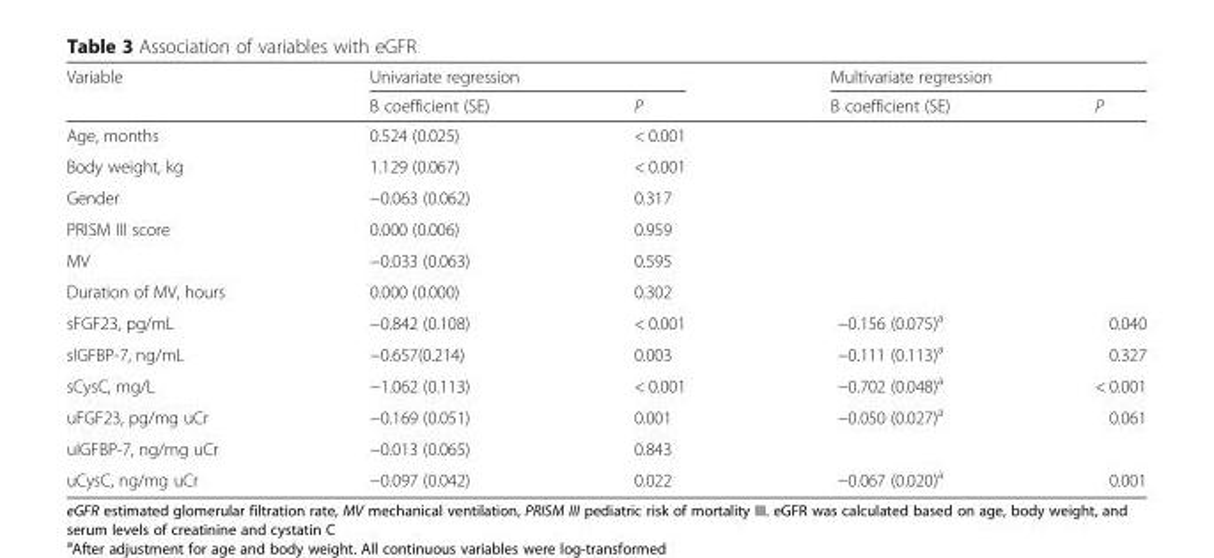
<table><thead><tr><td rowspan="2">Variable</td><td colspan="2">Univariate regression</td><td colspan="2">Multivariate regression</td></tr><tr><td>B coefficient (SE)</td><td>P</td><td>B coefficient (SE)</td><td>P</td></tr></thead><tbody><tr><td>Age, months</td><td>0.524 (0.025)</td><td>&lt; 0.001</td><td></td><td></td></tr><tr><td>Body weight, kg</td><td>1.129 (0.067)</td><td>&lt; 0.001</td><td></td><td></td></tr><tr><td>Gender</td><td>−0.063 (0.062)</td><td>0.317</td><td></td><td></td></tr><tr><td>PRISM III score</td><td>0.000 (0.006)</td><td>0.959</td><td></td><td></td></tr><tr><td>MV</td><td>−0.033 (0.063)</td><td>0.595</td><td></td><td></td></tr><tr><td>Duration of MV, hours</td><td>0.000 (0.000)</td><td>0.302</td><td></td><td></td></tr><tr><td>sFGF23, pg/mL</td><td>−0.842 (0.108)</td><td>&lt; 0.001</td><td>−0.156 (0.075)<sup>a</sup></td><td>0.040</td></tr><tr><td>sIGFBP-7, ng/mL</td><td>−0.657(0.214)</td><td>0.003</td><td>−0.111 (0.113)<sup>a</sup></td><td>0.327</td></tr><tr><td>sCysC, mg/L</td><td>−1.062 (0.113)</td><td>&lt; 0.001</td><td>−0.702 (0.048)<sup>a</sup></td><td>&lt; 0.001</td></tr><tr><td>uFGF23, pg/mg uCr</td><td>−0.169 (0.051)</td><td>0.001</td><td>−0.050 (0.027)<sup>a</sup></td><td>0.061</td></tr><tr><td>uIGFBP-7, ng/mg uCr</td><td>−0.013 (0.065)</td><td>0.843</td><td></td><td></td></tr><tr><td>uCysC, ng/mg uCr</td><td>−0.097 (0.042)</td><td>0.022</td><td>−0.067 (0.020)<sup>a</sup></td><td>0.001</td></tr></tbody></table>